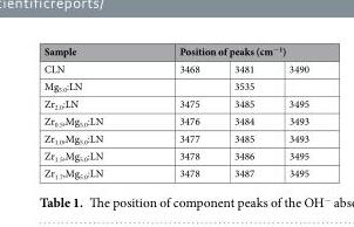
<table><thead><tr><td rowspan="2">Sample CLN</td><td colspan="3">Position of peaks (cm<sup>−1</sup>)</td></tr><tr><td>3468</td><td>3481</td><td>3490</td></tr></thead><tbody><tr><td>Mg<sub>5.0</sub>:LN</td><td></td><td>3535</td><td></td></tr><tr><td>Zr<sub>2.0</sub>:LN</td><td>3475</td><td>3485</td><td>3495</td></tr><tr><td>Zr<sub>0.5</sub>,Mg<sub>5.0</sub>:LN</td><td>3476</td><td>3484</td><td>3493</td></tr><tr><td>Zr<sub>1.0</sub>,Mg<sub>5.0</sub>:LN</td><td>3477</td><td>3485</td><td>3493</td></tr><tr><td>Zr<sub>1.5</sub>,Mg<sub>5.0</sub>:LN</td><td>3478</td><td>3486</td><td>3495</td></tr><tr><td>Zr<sub>1.7</sub>,Mg<sub>5.0</sub>:LN</td><td>3478</td><td>3487</td><td>3495</td></tr></tbody></table>